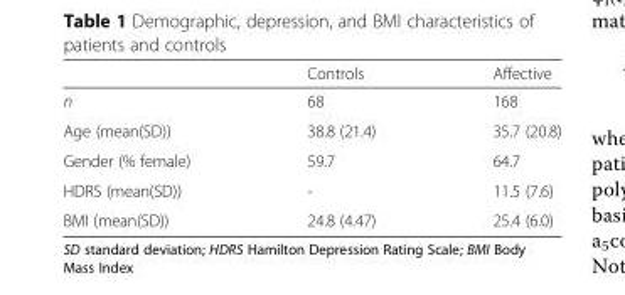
<table><thead><tr><td></td><td>Controls</td><td>Affective</td></tr></thead><tbody><tr><td>n</td><td>68</td><td>168</td></tr><tr><td>Age (mean(SD))</td><td>38.8 (21.4)</td><td>35.7 (20.8)</td></tr><tr><td>Gender (% female)</td><td>59.7</td><td>64.7</td></tr><tr><td>HDRS (mean(SD))</td><td>-</td><td>11.5 (7.6)</td></tr><tr><td>BMI (mean(SD))</td><td>24.8 (4.47)</td><td>25.4 (6.0)</td></tr></tbody></table>